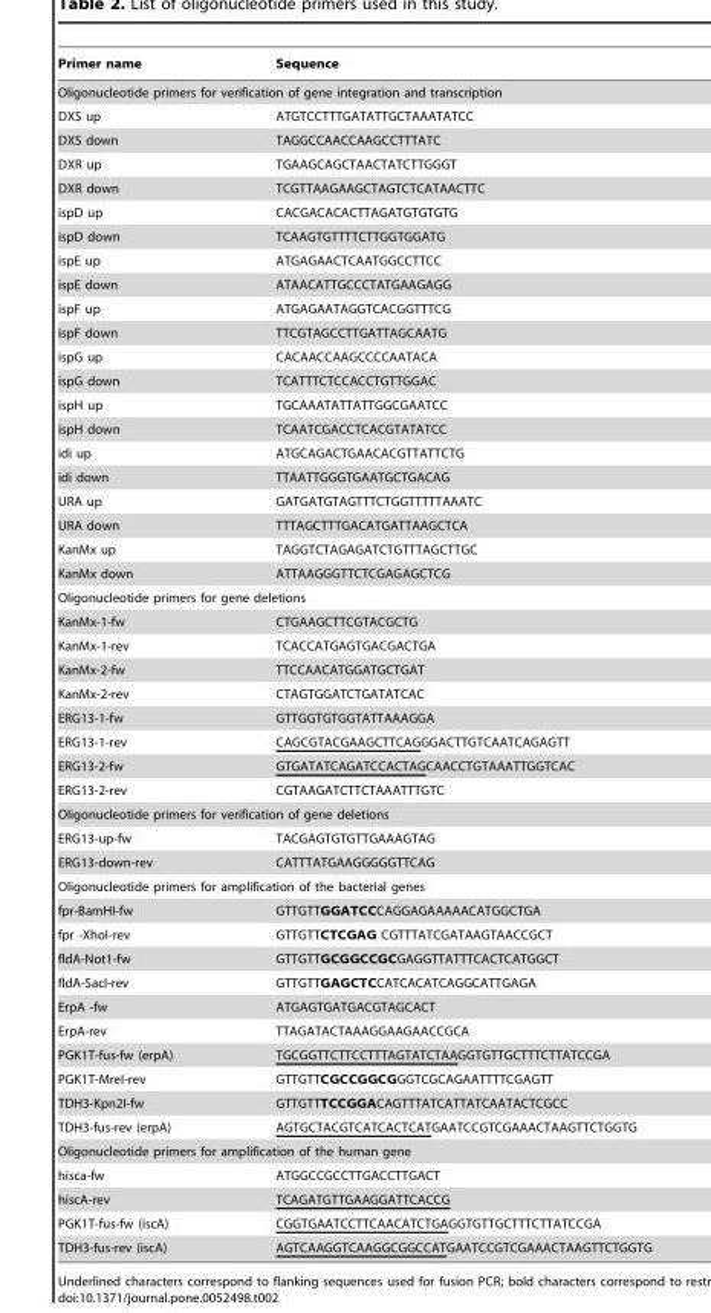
<table><thead><tr><td>Primer name</td><td>Sequence</td></tr></thead><tbody><tr><td colspan="2">Oligonucleotide primers for verification of gene integration and transcription</td></tr><tr><td>DXS up</td><td>ATGTCCTTTGATATTGCTAAATATCC</td></tr><tr><td>DXS down</td><td>TAGGCCAACCAAGCCTTTATC</td></tr><tr><td>DXR up</td><td>TGAAGCAGCTAACTATCTTGGGT</td></tr><tr><td>DXR down</td><td>TCGTTAAGAAGCTAGTCTCATAACTTC</td></tr><tr><td>ispD up</td><td>CACGACACACTTAGATGTGTGTG</td></tr><tr><td>ispD down</td><td>TCAAGTGTTTTCTTGGTGGATG</td></tr><tr><td>ispE up</td><td>ATGAGAACTCAATGGCCTTCC</td></tr><tr><td>ispE down</td><td>ATAACATTGCCCTATGAAGAGG</td></tr><tr><td>ispF up</td><td>ATGAGAATAGGTCACGGTTTCG</td></tr><tr><td>ispF down</td><td>TTCGTAGCCTTGATTAGCAATG</td></tr><tr><td>ispG up</td><td>CACAACCAAGCCCCAATACA</td></tr><tr><td>ispG down</td><td>TCATTTCTCCACCTGTTGGAC</td></tr><tr><td>ispH up</td><td>TGCAAATATTATTGGCGAATCC</td></tr><tr><td>ispH down</td><td>TCAATCGACCTCACGTATATCC</td></tr><tr><td>idi up</td><td>ATGCAGACTGAACACGTTATTCTG</td></tr><tr><td>idi down</td><td>TTAATTGGGTGAATGCTGACAG</td></tr><tr><td>URA up</td><td>GATGATGTAGTTTCTGGTTTTTAAATC</td></tr><tr><td>URA down</td><td>TTTAGCTTTGACATGATTAAGCTCA</td></tr><tr><td>KanMx up</td><td>TAGGTCTAGAGATCTGTTTAGCTTGC</td></tr><tr><td>KanMx down</td><td>ATTAAGGGTTCTCGAGAGCTCG</td></tr><tr><td colspan="2">Oligonucleotide primers for gene deletions</td></tr><tr><td>KanMx-1-fw</td><td>CTGAAGCTTCGTACGCTG</td></tr><tr><td>KanMx-1-rev</td><td>TCACCATGAGTGACGACTGA</td></tr><tr><td>KanMx-2-fw</td><td>TTCCAACATGGATGCTGAT</td></tr><tr><td>KanMx-2-rev</td><td>CTAGTGGATCTGATATCAC</td></tr><tr><td>ERG13-1-fw</td><td>GTTGGTGTGGTATTAAAGGA</td></tr><tr><td>ERG13-1-rev</td><td>CAGCGTACGAAGCTTCAGGGACTTGTCAATCAGAGTT</td></tr><tr><td>ERG13-2-fw</td><td>GTGATATCAGATCCACTAGCAACCTGTAAATTGGTCAC</td></tr><tr><td>ERG13-2-rev</td><td>CGTAAGATCTTCTAAATTTGTC</td></tr><tr><td colspan="2">Oligonucleotide primers for verification of gene deletions</td></tr><tr><td>ERG13-up-fw</td><td>TACGAGTGTGTTGAAAGTAG</td></tr><tr><td>ERG13-down-rev</td><td>CATTTATGAAGGGGGTTCAG</td></tr><tr><td colspan="2">Oligonucleotide primers for amplification of the bacterial genes</td></tr><tr><td>fpr-BamHI-fw</td><td>GTTGTTGGATCCCAGGAGAAAAACATGGCTGA</td></tr><tr><td>fpr -XhoI-rev</td><td>GTTGTTCTCGAG CGTTTATCGATAAGTAACCGCT</td></tr><tr><td>fldA-Not1-fw</td><td>GTTGTTGCGGCCGCGAGGTTATTTCACTCATGGCT</td></tr><tr><td>fldA-SacI-rev</td><td>GTTGTTGAGCTCCATCACATCAGGCATTGAGA</td></tr><tr><td>ErpA -fw</td><td>ATGAGTGATGACGTAGCACT</td></tr><tr><td>ErpA-rev</td><td>TTAGATACTAAAGGAAGAACCGCA</td></tr><tr><td>PGK1T-fus-fw (erpA)</td><td>TGCGGTTCTTCCTTTAGTATCTAAGGTGTTGCTTTCTTATCCGA</td></tr><tr><td>PGK1T-MreI-rev</td><td>GTTGTTCGCCGGCGGGTCGCAGAATTTTCGAGTT</td></tr><tr><td>TDH3-Kpn2I-fw</td><td>GTTGTTTCCGGACAGTTTATCATTATCAATACTCGCC</td></tr><tr><td>TDH3-fus-rev (erpA)</td><td>AGTGCTACGTCATCACTCATGAATCCGTCGAAACTAAGTTCTGGTG</td></tr><tr><td colspan="2">Oligonucleotide primers for amplification of the human gene</td></tr><tr><td>hisca-fw</td><td>ATGGCCGCCTTGACCTTGACT</td></tr><tr><td>hiscA-rev</td><td>TCAGATGTTGAAGGATTCACCG</td></tr><tr><td>PGK1T-fus-fw (iscA)</td><td>CGGTGAATCCTTCAACATCTGAGGTGTTGCTTTCTTATCCGA</td></tr><tr><td>TDH3-fus-rev (iscA)</td><td>AGTCAAGGTCAAGGCGGCCATGAATCCGTCGAAACTAAGTTCTGGTG</td></tr></tbody></table>